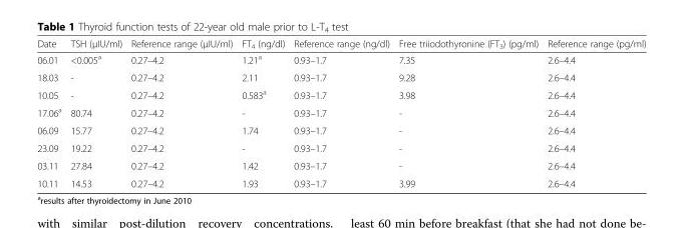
<table><thead><tr><td>Date</td><td>TSH (μIU/ml)</td><td>Reference range (μIU/ml)</td><td>FT<sub>4</sub> (ng/dl)</td><td>Reference range (ng/dl)</td><td>Free triiodothyronine (FT<sub>3</sub>) (pg/ml)</td><td>Reference range (pg/ml)</td></tr></thead><tbody><tr><td>06.01</td><td>&lt;0.005<sup>a</sup></td><td>0.27–4.2</td><td>1.21<sup>a</sup></td><td>0.93–1.7</td><td>7.35</td><td>2.6–4.4</td></tr><tr><td>18.03</td><td>-</td><td>0.27–4.2</td><td>2.11</td><td>0.93–1.7</td><td>9.28</td><td>2.6–4.4</td></tr><tr><td>10.05</td><td>-</td><td>0.27–4.2</td><td>0.583<sup>a</sup></td><td>0.93–1.7</td><td>3.98</td><td>2.6–4.4</td></tr><tr><td>17.06<sup>a</sup></td><td>80.74</td><td>0.27–4.2</td><td>-</td><td>0.93–1.7</td><td>-</td><td>2.6–4.4</td></tr><tr><td>06.09</td><td>15.77</td><td>0.27–4.2</td><td>1.74</td><td>0.93–1.7</td><td>-</td><td>2.6–4.4</td></tr><tr><td>23.09</td><td>19.22</td><td>0.27–4.2</td><td>-</td><td>0.93–1.7</td><td>-</td><td>2.6–4.4</td></tr><tr><td>03.11</td><td>27.84</td><td>0.27–4.2</td><td>1.42</td><td>0.93–1.7</td><td>-</td><td>2.6–4.4</td></tr><tr><td>10.11</td><td>14.53</td><td>0.27–4.2</td><td>1.93</td><td>0.93–1.7</td><td>3.99</td><td>2.6–4.4</td></tr></tbody></table>